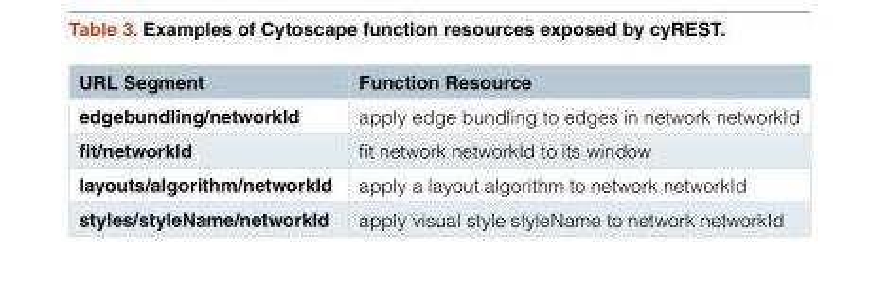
<table><thead><tr><td>URL Segment</td><td>Function Resource</td></tr></thead><tbody><tr><td>edgebundling/networkId</td><td>apply edge bundling to edges in network networkId</td></tr><tr><td>fit/networkId</td><td>fit network networkId to its window</td></tr><tr><td>layouts/algorithm/networkId</td><td>apply a layout algorithm to network networkId</td></tr><tr><td>styles/styleName/networkId</td><td>apply visual style styleName to network networkId</td></tr></tbody></table>